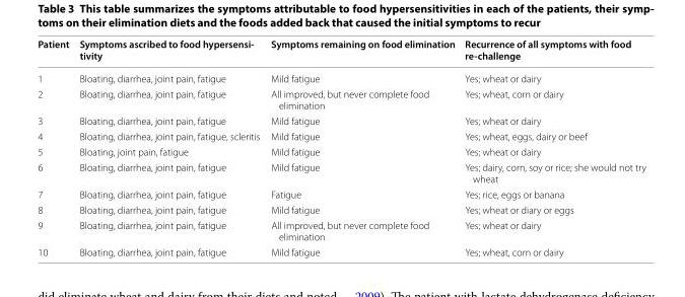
<table><thead><tr><td>Patient</td><td>Symptoms ascribed to food hypersensi- tivity</td><td>Symptoms remaining on food elimination</td><td>Recurrence of all symptoms with food re-challenge</td></tr></thead><tbody><tr><td>1</td><td>Bloating, diarrhea, joint pain, fatigue</td><td>Mild fatigue</td><td>Yes; wheat or dairy</td></tr><tr><td>2</td><td>Bloating, diarrhea, joint pain, fatigue</td><td>All improved, but never complete food elimination</td><td>Yes; wheat, corn or dairy</td></tr><tr><td>3</td><td>Bloating, diarrhea, joint pain, fatigue</td><td>Mild fatigue</td><td>Yes; wheat or dairy</td></tr><tr><td>4</td><td>Bloating, diarrhea, joint pain, fatigue, scleritis</td><td>Mild fatigue</td><td>Yes; wheat, eggs, dairy or beef</td></tr><tr><td>5</td><td>Bloating, joint pain, fatigue</td><td>Mild fatigue</td><td>Yes; wheat or dairy</td></tr><tr><td>6</td><td>Bloating, diarrhea, joint pain, fatigue</td><td>Mild fatigue</td><td>Yes; dairy, corn, soy or rice; she would not try wheat</td></tr><tr><td>7</td><td>Bloating, diarrhea, joint pain, fatigue</td><td>Fatigue</td><td>Yes; rice, eggs or banana</td></tr><tr><td>8</td><td>Bloating, diarrhea, joint pain, fatigue</td><td>Mild fatigue</td><td>Yes; wheat or diary or eggs</td></tr><tr><td>9</td><td>Bloating, diarrhea, joint pain, fatigue</td><td>All improved, but never complete food elimination</td><td>Yes; wheat or dairy</td></tr><tr><td>10</td><td>Bloating, diarrhea, joint pain, fatigue</td><td>Mild fatigue</td><td>Yes; wheat, corn or dairy</td></tr></tbody></table>